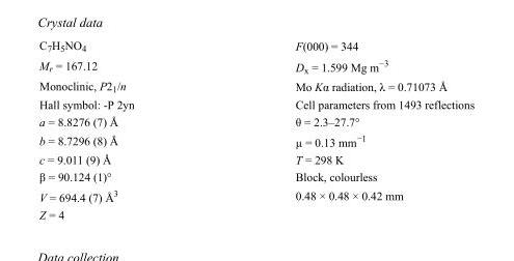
<table><tbody><tr><td>C<sub>7</sub>H<sub>5</sub>NO<sub>4</sub></td><td>F(000) = 344</td></tr><tr><td>M<sub>r</sub> = 167.12</td><td>D<sub>x</sub> = 1.599 Mg m<sup>−3</sup></td></tr><tr><td>Monoclinic, P2<sub>1</sub>/n</td><td>Mo Kα radiation, λ = 0.71073 Å</td></tr><tr><td>Hall symbol: -P 2yn</td><td>Cell parameters from 1493 reflections</td></tr><tr><td>a = 8.8276 (7) Å</td><td>θ = 2.3–27.7°</td></tr><tr><td>b = 8.7296 (8) Å</td><td>µ = 0.13 mm<sup>−1</sup></td></tr><tr><td>c = 9.011 (9) Å</td><td>T = 298 K</td></tr><tr><td>β = 90.124 (1)°</td><td>Block, colourless</td></tr><tr><td>V = 694.4 (7) Å<sup>3</sup></td><td>0.48 × 0.48 × 0.42 mm</td></tr><tr><td>Z = 4</td><td></td></tr></tbody></table>